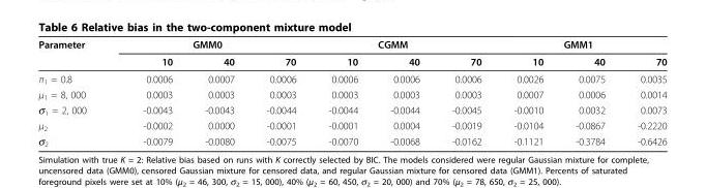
<table><thead><tr><td rowspan="2">Parameter</td><td colspan="3">GMM0</td><td colspan="3">CGMM</td><td colspan="3">GMM1</td></tr><tr><td>10</td><td>40</td><td>70</td><td>10</td><td>40</td><td>70</td><td>10</td><td>40</td><td>70</td></tr></thead><tbody><tr><td>π<sub>1</sub> = 0.8</td><td>0.0006</td><td>0.0007</td><td>0.0006</td><td>0.0006</td><td>0.0006</td><td>0.0006</td><td>0.0026</td><td>0.0075</td><td>0.0035</td></tr><tr><td>μ<sub>1</sub> = 8, 000</td><td>0.0003</td><td>0.0003</td><td>0.0003</td><td>0.0003</td><td>0.0003</td><td>0.0003</td><td>0.0007</td><td>0.0006</td><td>0.0014</td></tr><tr><td>σ<sub>1</sub> = 2, 000</td><td>-0.0043</td><td>-0.0043</td><td>-0.0044</td><td>-0.0044</td><td>-0.0044</td><td>-0.0045</td><td>-0.0010</td><td>0.0032</td><td>0.0073</td></tr><tr><td>μ<sub>2</sub></td><td>-0.0002</td><td>0.0000</td><td>-0.0001</td><td>-0.0001</td><td>0.0004</td><td>-0.0019</td><td>-0.0104</td><td>-0.0867</td><td>-0.2220</td></tr><tr><td>σ<sub>2</sub></td><td>-0.0079</td><td>-0.0080</td><td>-0.0075</td><td>-0.0070</td><td>-0.0068</td><td>-0.0162</td><td>-0.1121</td><td>-0.3784</td><td>-0.6426</td></tr></tbody></table>